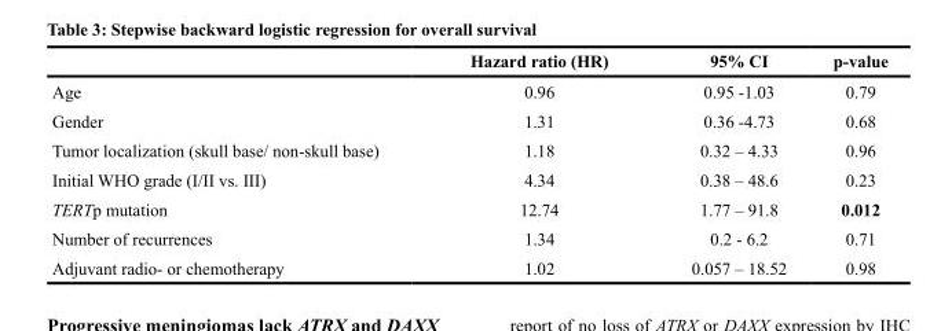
<table><thead><tr><td></td><td>Hazard ratio (HR)</td><td>95% CI</td><td>p-value</td></tr></thead><tbody><tr><td>Age</td><td>0.96</td><td>0.95 -1.03</td><td>0.79</td></tr><tr><td>Gender</td><td>1.31</td><td>0.36 -4.73</td><td>0.68</td></tr><tr><td>Tumor localization (skull base/ non-skull base)</td><td>1.18</td><td>0.32 – 4.33</td><td>0.96</td></tr><tr><td>Initial WHO grade (I/II vs. III)</td><td>4.34</td><td>0.38 – 48.6</td><td>0.23</td></tr><tr><td>TERTp mutation</td><td>12.74</td><td>1.77 – 91.8</td><td>0.012</td></tr><tr><td>Number of recurrences</td><td>1.34</td><td>0.2 - 6.2</td><td>0.71</td></tr><tr><td>Adjuvant radio- or chemotherapy</td><td>1.02</td><td>0.057 – 18.52</td><td>0.98</td></tr></tbody></table>